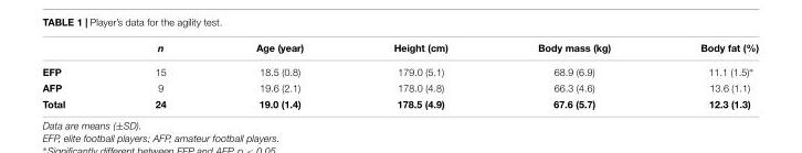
<table><thead><tr><td></td><td>n</td><td>Age (year)</td><td>Height (cm)</td><td>Body mass (kg)</td><td>Body fat (%)</td></tr></thead><tbody><tr><td>EFP</td><td>15</td><td>18.5 (0.8)</td><td>179.0 (5.1)</td><td>68.9 (6.9)</td><td>11.1 (1.5)∗</td></tr><tr><td>AFP</td><td>9</td><td>19.6 (2.1)</td><td>178.0 (4.8)</td><td>66.3 (4.6)</td><td>13.6 (1.1)</td></tr><tr><td>Total</td><td>24</td><td>19.0 (1.4)</td><td>178.5 (4.9)</td><td>67.6 (5.7)</td><td>12.3 (1.3)</td></tr></tbody></table>